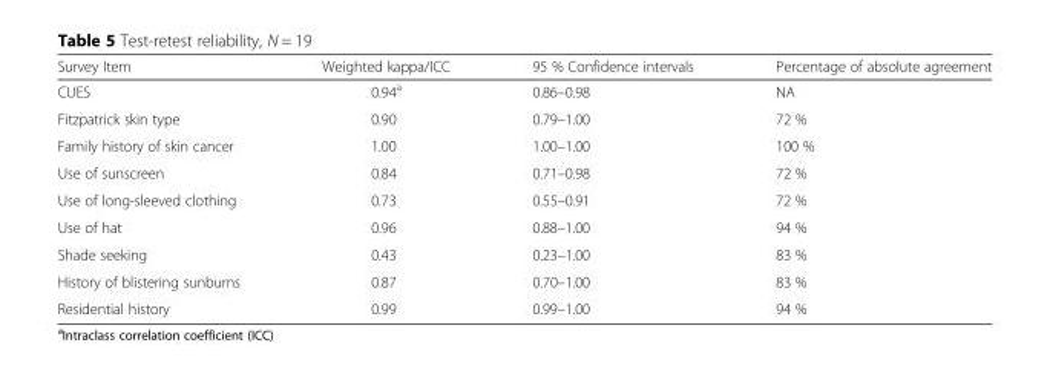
<table><thead><tr><td>Survey Item</td><td>Weighted kappa/ICC</td><td>95 % Confidence intervals</td><td>Percentage of absolute agreement</td></tr></thead><tbody><tr><td>CUES</td><td>0.94<sup>a</sup></td><td>0.86–0.98</td><td>NA</td></tr><tr><td>Fitzpatrick skin type</td><td>0.90</td><td>0.79–1.00</td><td>72 %</td></tr><tr><td>Family history of skin cancer</td><td>1.00</td><td>1.00–1.00</td><td>100 %</td></tr><tr><td>Use of sunscreen</td><td>0.84</td><td>0.71–0.98</td><td>72 %</td></tr><tr><td>Use of long-sleeved clothing</td><td>0.73</td><td>0.55–0.91</td><td>72 %</td></tr><tr><td>Use of hat</td><td>0.96</td><td>0.88–1.00</td><td>94 %</td></tr><tr><td>Shade seeking</td><td>0.43</td><td>0.23–1.00</td><td>83 %</td></tr><tr><td>History of blistering sunburns</td><td>0.87</td><td>0.70–1.00</td><td>83 %</td></tr><tr><td>Residential history</td><td>0.99</td><td>0.99–1.00</td><td>94 %</td></tr></tbody></table>